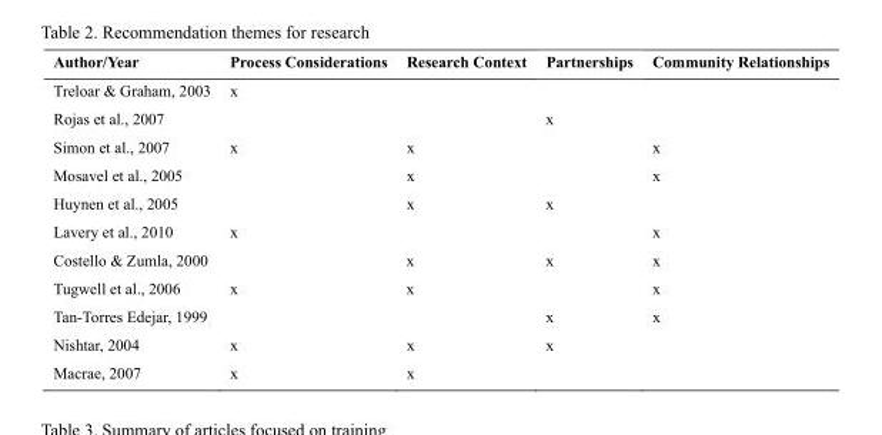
<table><thead><tr><td>Author/Year</td><td>Process Considerations</td><td>Research Context</td><td>Partnerships</td><td>Community Relationships</td></tr></thead><tbody><tr><td>Treloar &amp; Graham, 2003</td><td>x</td><td></td><td></td><td></td></tr><tr><td>Rojas et al., 2007</td><td></td><td></td><td>x</td><td></td></tr><tr><td>Simon et al., 2007</td><td>x</td><td>x</td><td></td><td>x</td></tr><tr><td>Mosavel et al., 2005</td><td></td><td>x</td><td></td><td>x</td></tr><tr><td>Huynen et al., 2005</td><td></td><td>x</td><td>x</td><td></td></tr><tr><td>Lavery et al., 2010</td><td>x</td><td></td><td></td><td>x</td></tr><tr><td>Costello &amp; Zumla, 2000</td><td></td><td>x</td><td>x</td><td>x</td></tr><tr><td>Tugwell et al., 2006</td><td>x</td><td>x</td><td></td><td>x</td></tr><tr><td>Tan-Torres Edejar, 1999</td><td></td><td></td><td>x</td><td>x</td></tr><tr><td>Nishtar, 2004</td><td>x</td><td>x</td><td>x</td><td></td></tr><tr><td>Macrae, 2007</td><td>x</td><td>x</td><td></td><td></td></tr></tbody></table>